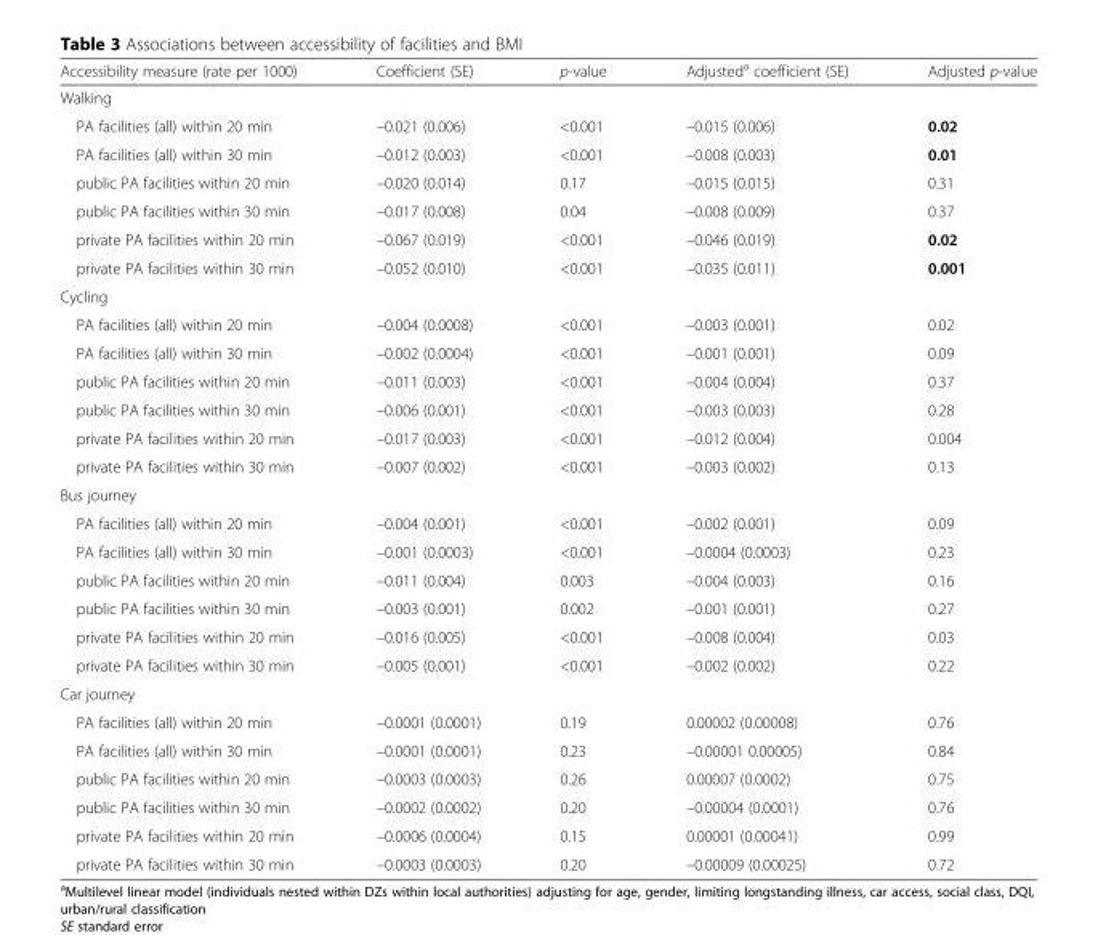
<table><thead><tr><td>Accessibility measure (rate per 1000)</td><td>Coefficient (SE)</td><td>p-value</td><td>Adjusted<sup>a</sup> coefficient (SE)</td><td>Adjusted p-value</td></tr></thead><tbody><tr><td colspan="5">Walking</td></tr><tr><td>PA facilities (all) within 20 min</td><td>–0.021 (0.006)</td><td>&lt;0.001</td><td>–0.015 (0.006)</td><td>0.02</td></tr><tr><td>PA facilities (all) within 30 min</td><td>–0.012 (0.003)</td><td>&lt;0.001</td><td>–0.008 (0.003)</td><td>0.01</td></tr><tr><td>public PA facilities within 20 min</td><td>–0.020 (0.014)</td><td>0.17</td><td>–0.015 (0.015)</td><td>0.31</td></tr><tr><td>public PA facilities within 30 min</td><td>–0.017 (0.008)</td><td>0.04</td><td>–0.008 (0.009)</td><td>0.37</td></tr><tr><td>private PA facilities within 20 min</td><td>–0.067 (0.019)</td><td>&lt;0.001</td><td>–0.046 (0.019)</td><td>0.02</td></tr><tr><td>private PA facilities within 30 min</td><td>–0.052 (0.010)</td><td>&lt;0.001</td><td>–0.035 (0.011)</td><td>0.001</td></tr><tr><td colspan="5">Cycling</td></tr><tr><td>PA facilities (all) within 20 min</td><td>–0.004 (0.0008)</td><td>&lt;0.001</td><td>–0.003 (0.001)</td><td>0.02</td></tr><tr><td>PA facilities (all) within 30 min</td><td>–0.002 (0.0004)</td><td>&lt;0.001</td><td>–0.001 (0.001)</td><td>0.09</td></tr><tr><td>public PA facilities within 20 min</td><td>–0.011 (0.003)</td><td>&lt;0.001</td><td>–0.004 (0.004)</td><td>0.37</td></tr><tr><td>public PA facilities within 30 min</td><td>–0.006 (0.001)</td><td>&lt;0.001</td><td>–0.003 (0.003)</td><td>0.28</td></tr><tr><td>private PA facilities within 20 min</td><td>–0.017 (0.003)</td><td>&lt;0.001</td><td>–0.012 (0.004)</td><td>0.004</td></tr><tr><td>private PA facilities within 30 min</td><td>–0.007 (0.002)</td><td>&lt;0.001</td><td>–0.003 (0.002)</td><td>0.13</td></tr><tr><td colspan="5">Bus journey</td></tr><tr><td>PA facilities (all) within 20 min</td><td>–0.004 (0.001)</td><td>&lt;0.001</td><td>–0.002 (0.001)</td><td>0.09</td></tr><tr><td>PA facilities (all) within 30 min</td><td>–0.001 (0.0003)</td><td>&lt;0.001</td><td>–0.0004 (0.0003)</td><td>0.23</td></tr><tr><td>public PA facilities within 20 min</td><td>–0.011 (0.004)</td><td>0.003</td><td>–0.004 (0.003)</td><td>0.16</td></tr><tr><td>public PA facilities within 30 min</td><td>–0.003 (0.001)</td><td>0.002</td><td>–0.001 (0.001)</td><td>0.27</td></tr><tr><td>private PA facilities within 20 min</td><td>–0.016 (0.005)</td><td>&lt;0.001</td><td>–0.008 (0.004)</td><td>0.03</td></tr><tr><td>private PA facilities within 30 min</td><td>–0.005 (0.001)</td><td>&lt;0.001</td><td>–0.002 (0.002)</td><td>0.22</td></tr><tr><td colspan="5">Car journey</td></tr><tr><td>PA facilities (all) within 20 min</td><td>–0.0001 (0.0001)</td><td>0.19</td><td>0.00002 (0.00008)</td><td>0.76</td></tr><tr><td>PA facilities (all) within 30 min</td><td>–0.0001 (0.0001)</td><td>0.23</td><td>–0.00001 0.00005)</td><td>0.84</td></tr><tr><td>public PA facilities within 20 min</td><td>–0.0003 (0.0003)</td><td>0.26</td><td>0.00007 (0.0002)</td><td>0.75</td></tr><tr><td>public PA facilities within 30 min</td><td>–0.0002 (0.0002)</td><td>0.20</td><td>–0.00004 (0.0001)</td><td>0.76</td></tr><tr><td>private PA facilities within 20 min</td><td>–0.0006 (0.0004)</td><td>0.15</td><td>0.00001 (0.00041)</td><td>0.99</td></tr><tr><td>private PA facilities within 30 min</td><td>–0.0003 (0.0003)</td><td>0.20</td><td>–0.00009 (0.00025)</td><td>0.72</td></tr></tbody></table>